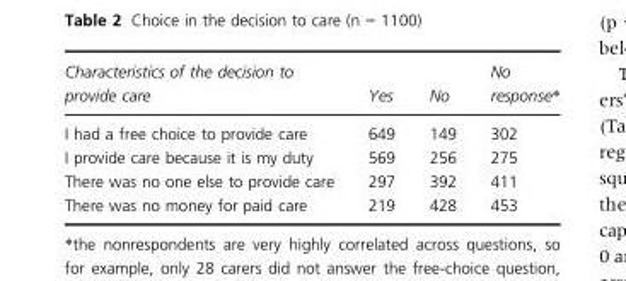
<table><thead><tr><td>Characteristics of the decision to provide care</td><td>Yes</td><td>No</td><td>No response*</td></tr></thead><tbody><tr><td>I had a free choice to provide care</td><td>649</td><td>149</td><td>302</td></tr><tr><td>I provide care because it is my duty</td><td>569</td><td>256</td><td>275</td></tr><tr><td>There was no one else to provide care</td><td>297</td><td>392</td><td>411</td></tr><tr><td>There was no money for paid care</td><td>219</td><td>428</td><td>453</td></tr></tbody></table>